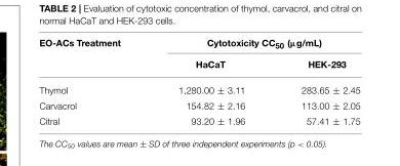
<table><thead><tr><td rowspan="2">EO-ACs Treatment</td><td colspan="2">Cytotoxicity CC<sub>50</sub> (µg/mL)</td></tr><tr><td>HaCaT</td><td>HEK-293</td></tr></thead><tbody><tr><td>Thymol</td><td>1,280.00 ± 3.11</td><td>283.65 ± 2.45</td></tr><tr><td>Carvacrol</td><td>154.82 ± 2.16</td><td>113.00 ± 2.05</td></tr><tr><td>Citral</td><td>93.20 ± 1.96</td><td>57.41 ± 1.75</td></tr></tbody></table>